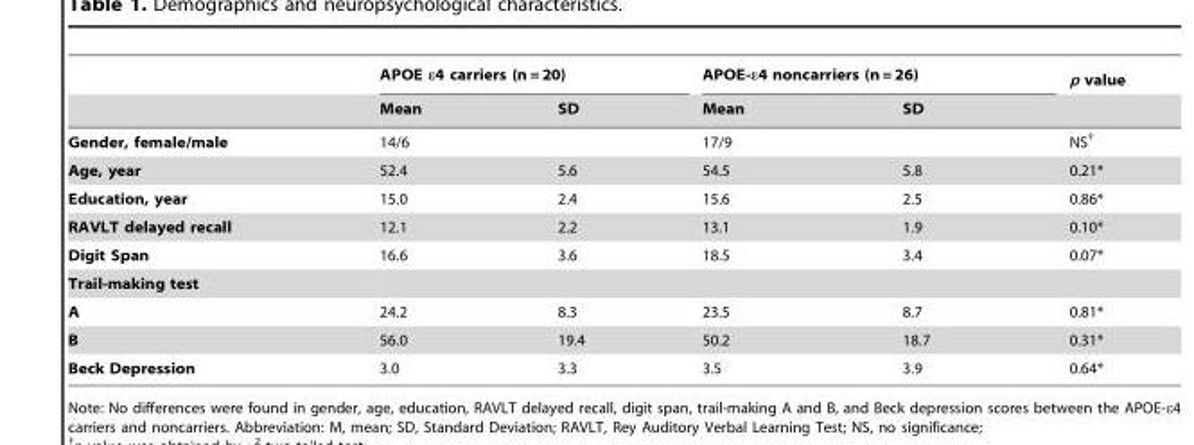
<table><thead><tr><td rowspan="2"></td><td colspan="2">APOE ε4 carriers (n = 20)</td><td colspan="2">APOE-ε4 noncarriers (n = 26)</td><td rowspan="2">p value</td></tr><tr><td>Mean</td><td>SD</td><td>Mean</td><td>SD</td></tr></thead><tbody><tr><td>Gender, female/male</td><td colspan="2">14/6</td><td colspan="2">17/9</td><td>NS†</td></tr><tr><td>Age, year</td><td>52.4</td><td>5.6</td><td>54.5</td><td>5.8</td><td>0.21*</td></tr><tr><td>Education, year</td><td>15.0</td><td>2.4</td><td>15.6</td><td>2.5</td><td>0.86*</td></tr><tr><td>RAVLT delayed recall</td><td>12.1</td><td>2.2</td><td>13.1</td><td>1.9</td><td>0.10*</td></tr><tr><td>Digit Span</td><td>16.6</td><td>3.6</td><td>18.5</td><td>3.4</td><td>0.07*</td></tr><tr><td colspan="6">Trail-making test</td></tr><tr><td>A</td><td>24.2</td><td>8.3</td><td>23.5</td><td>8.7</td><td>0.81*</td></tr><tr><td>B</td><td>56.0</td><td>19.4</td><td>50.2</td><td>18.7</td><td>0.31*</td></tr><tr><td>Beck Depression</td><td>3.0</td><td>3.3</td><td>3.5</td><td>3.9</td><td>0.64*</td></tr></tbody></table>